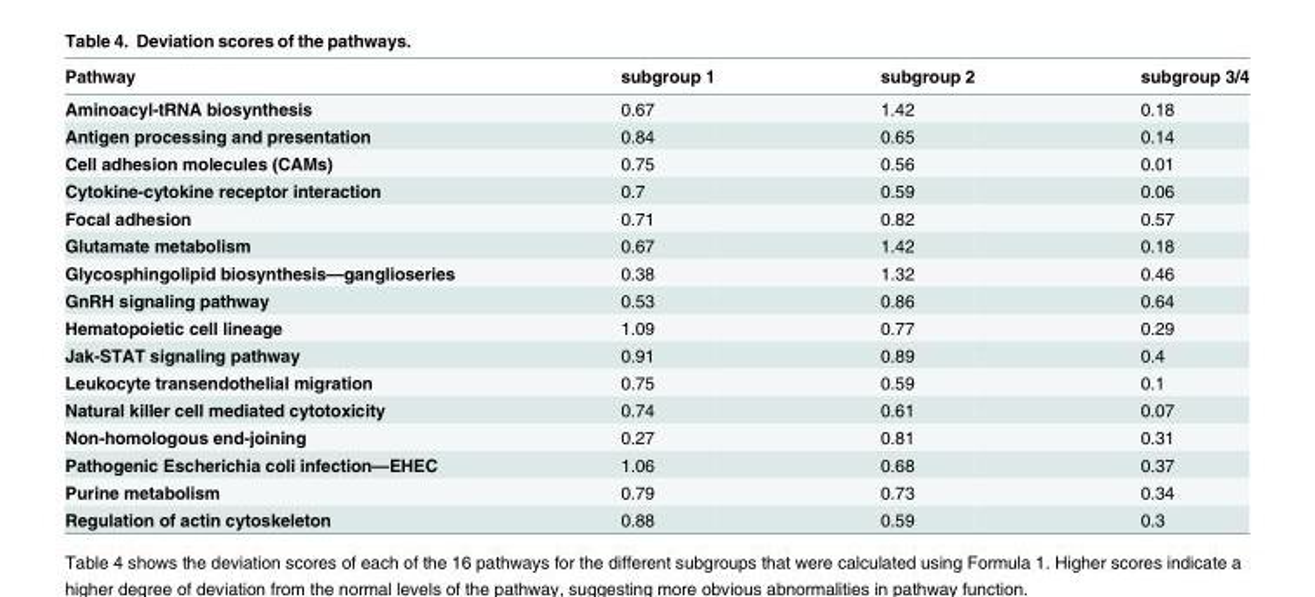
<table><thead><tr><td>Pathway</td><td>subgroup 1</td><td>subgroup 2</td><td>subgroup 3/4</td></tr></thead><tbody><tr><td>Aminoacyl-tRNA biosynthesis</td><td>0.67</td><td>1.42</td><td>0.18</td></tr><tr><td>Antigen processing and presentation</td><td>0.84</td><td>0.65</td><td>0.14</td></tr><tr><td>Cell adhesion molecules (CAMs)</td><td>0.75</td><td>0.56</td><td>0.01</td></tr><tr><td>Cytokine-cytokine receptor interaction</td><td>0.7</td><td>0.59</td><td>0.06</td></tr><tr><td>Focal adhesion</td><td>0.71</td><td>0.82</td><td>0.57</td></tr><tr><td>Glutamate metabolism</td><td>0.67</td><td>1.42</td><td>0.18</td></tr><tr><td>Glycosphingolipid biosynthesis—ganglioseries</td><td>0.38</td><td>1.32</td><td>0.46</td></tr><tr><td>GnRH signaling pathway</td><td>0.53</td><td>0.86</td><td>0.64</td></tr><tr><td>Hematopoietic cell lineage</td><td>1.09</td><td>0.77</td><td>0.29</td></tr><tr><td>Jak-STAT signaling pathway</td><td>0.91</td><td>0.89</td><td>0.4</td></tr><tr><td>Leukocyte transendothelial migration</td><td>0.75</td><td>0.59</td><td>0.1</td></tr><tr><td>Natural killer cell mediated cytotoxicity</td><td>0.74</td><td>0.61</td><td>0.07</td></tr><tr><td>Non-homologous end-joining</td><td>0.27</td><td>0.81</td><td>0.31</td></tr><tr><td>Pathogenic Escherichia coli infection—EHEC</td><td>1.06</td><td>0.68</td><td>0.37</td></tr><tr><td>Purine metabolism</td><td>0.79</td><td>0.73</td><td>0.34</td></tr><tr><td>Regulation of actin cytoskeleton</td><td>0.88</td><td>0.59</td><td>0.3</td></tr></tbody></table>